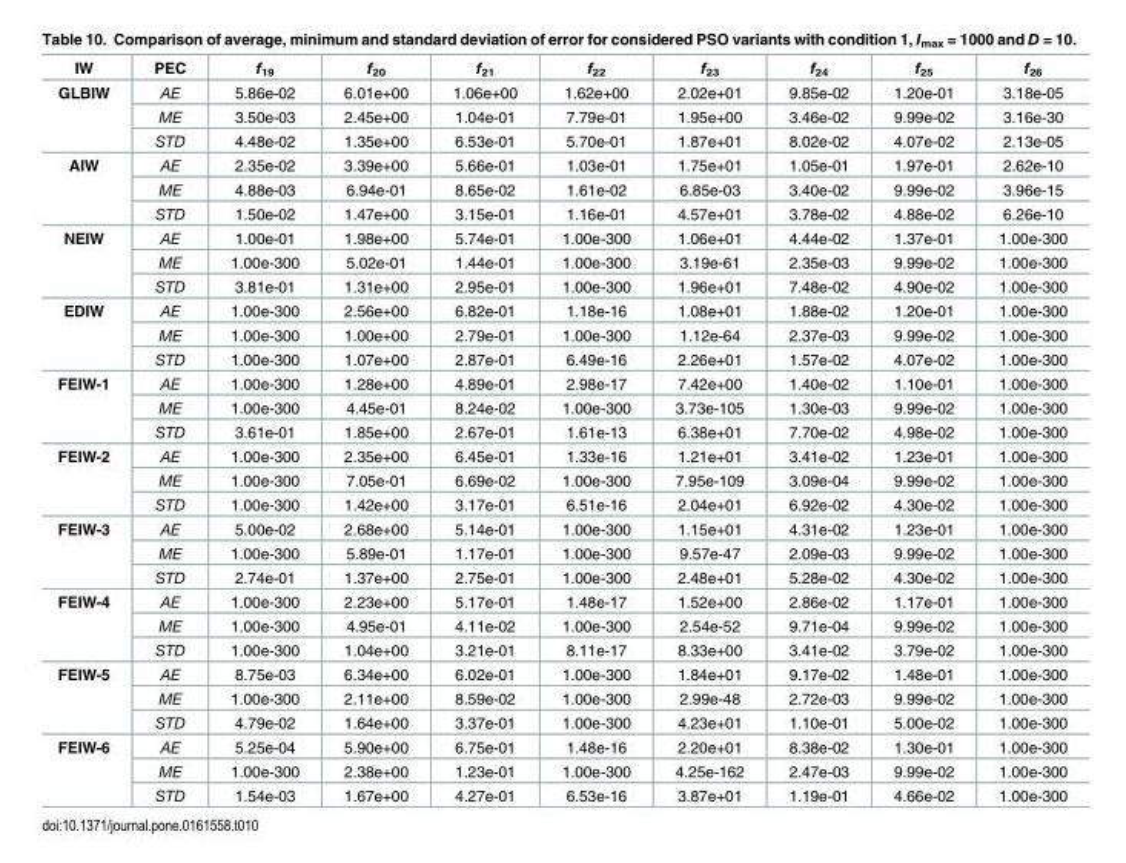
<table><thead><tr><td>IW</td><td>PEC</td><td>f<sub>19</sub></td><td>f<sub>20</sub></td><td>f<sub>21</sub></td><td>f<sub>22</sub></td><td>f<sub>23</sub></td><td>f<sub>24</sub></td><td>f<sub>25</sub></td><td>f<sub>26</sub></td></tr></thead><tbody><tr><td rowspan="3">GLBIW</td><td>AE</td><td>5.86e-02</td><td>6.01e+00</td><td>1.06e+00</td><td>1.62e+00</td><td>2.02e+01</td><td>9.85e-02</td><td>1.20e-01</td><td>3.18e-05</td></tr><tr><td>ME</td><td>3.50e-03</td><td>2.45e+00</td><td>1.04e-01</td><td>7.79e-01</td><td>1.95e+00</td><td>3.46e-02</td><td>9.99e-02</td><td>3.16e-30</td></tr><tr><td>STD</td><td>4.48e-02</td><td>1.35e+00</td><td>6.53e-01</td><td>5.70e-01</td><td>1.87e+01</td><td>8.02e-02</td><td>4.07e-02</td><td>2.13e-05</td></tr><tr><td rowspan="3">AIW</td><td>AE</td><td>2.35e-02</td><td>3.39e+00</td><td>5.66e-01</td><td>1.03e-01</td><td>1.75e+01</td><td>1.05e-01</td><td>1.97e-01</td><td>2.62e-10</td></tr><tr><td>ME</td><td>4.88e-03</td><td>6.94e-01</td><td>8.65e-02</td><td>1.61e-02</td><td>6.85e-03</td><td>3.40e-02</td><td>9.99e-02</td><td>3.96e-15</td></tr><tr><td>STD</td><td>1.50e-02</td><td>1.47e+00</td><td>3.15e-01</td><td>1.16e-01</td><td>4.57e+01</td><td>3.78e-02</td><td>4.88e-02</td><td>6.26e-10</td></tr><tr><td rowspan="3">NEIW</td><td>AE</td><td>1.00e-01</td><td>1.98e+00</td><td>5.74e-01</td><td>1.00e-300</td><td>1.06e+01</td><td>4.44e-02</td><td>1.37e-01</td><td>1.00e-300</td></tr><tr><td>ME</td><td>1.00e-300</td><td>5.02e-01</td><td>1.44e-01</td><td>1.00e-300</td><td>3.19e-61</td><td>2.35e-03</td><td>9.99e-02</td><td>1.00e-300</td></tr><tr><td>STD</td><td>3.81e-01</td><td>1.31e+00</td><td>2.95e-01</td><td>1.00e-300</td><td>1.96e+01</td><td>7.48e-02</td><td>4.90e-02</td><td>1.00e-300</td></tr><tr><td rowspan="3">EDIW</td><td>AE</td><td>1.00e-300</td><td>2.56e+00</td><td>6.82e-01</td><td>1.18e-16</td><td>1.08e+01</td><td>1.88e-02</td><td>1.20e-01</td><td>1.00e-300</td></tr><tr><td>ME</td><td>1.00e-300</td><td>1.00e+00</td><td>2.79e-01</td><td>1.00e-300</td><td>1.12e-64</td><td>2.37e-03</td><td>9.99e-02</td><td>1.00e-300</td></tr><tr><td>STD</td><td>1.00e-300</td><td>1.07e+00</td><td>2.87e-01</td><td>6.49e-16</td><td>2.26e+01</td><td>1.57e-02</td><td>4.07e-02</td><td>1.00e-300</td></tr><tr><td rowspan="3">FEIW-1</td><td>AE</td><td>1.00e-300</td><td>1.28e+00</td><td>4.89e-01</td><td>2.98e-17</td><td>7.42e+00</td><td>1.40e-02</td><td>1.10e-01</td><td>1.00e-300</td></tr><tr><td>ME</td><td>1.00e-300</td><td>4.45e-01</td><td>8.24e-02</td><td>1.00e-300</td><td>3.73e-105</td><td>1.30e-03</td><td>9.99e-02</td><td>1.00e-300</td></tr><tr><td>STD</td><td>3.61e-01</td><td>1.85e+00</td><td>2.67e-01</td><td>1.61e-13</td><td>6.38e+01</td><td>7.70e-02</td><td>4.98e-02</td><td>1.00e-300</td></tr><tr><td rowspan="3">FEIW-2</td><td>AE</td><td>1.00e-300</td><td>2.35e+00</td><td>6.45e-01</td><td>1.33e-16</td><td>1.21e+01</td><td>3.41e-02</td><td>1.23e-01</td><td>1.00e-300</td></tr><tr><td>ME</td><td>1.00e-300</td><td>7.05e-01</td><td>6.69e-02</td><td>1.00e-300</td><td>7.95e-109</td><td>3.09e-04</td><td>9.99e-02</td><td>1.00e-300</td></tr><tr><td>STD</td><td>1.00e-300</td><td>1.42e+00</td><td>3.17e-01</td><td>6.51e-16</td><td>2.04e+01</td><td>6.92e-02</td><td>4.30e-02</td><td>1.00e-300</td></tr><tr><td rowspan="3">FEIW-3</td><td>AE</td><td>5.00e-02</td><td>2.68e+00</td><td>5.14e-01</td><td>1.00e-300</td><td>1.15e+01</td><td>4.31e-02</td><td>1.23e-01</td><td>1.00e-300</td></tr><tr><td>ME</td><td>1.00e-300</td><td>5.89e-01</td><td>1.17e-01</td><td>1.00e-300</td><td>9.57e-47</td><td>2.09e-03</td><td>9.99e-02</td><td>1.00e-300</td></tr><tr><td>STD</td><td>2.74e-01</td><td>1.37e+00</td><td>2.75e-01</td><td>1.00e-300</td><td>2.48e+01</td><td>5.28e-02</td><td>4.30e-02</td><td>1.00e-300</td></tr><tr><td rowspan="3">FEIW-4</td><td>AE</td><td>1.00e-300</td><td>2.23e+00</td><td>5.17e-01</td><td>1.48e-17</td><td>1.52e+00</td><td>2.86e-02</td><td>1.17e-01</td><td>1.00e-300</td></tr><tr><td>ME</td><td>1.00e-300</td><td>4.95e-01</td><td>4.11e-02</td><td>1.00e-300</td><td>2.54e-52</td><td>9.71e-04</td><td>9.99e-02</td><td>1.00e-300</td></tr><tr><td>STD</td><td>1.00e-300</td><td>1.04e+00</td><td>3.21e-01</td><td>8.11e-17</td><td>8.33e+00</td><td>3.41e-02</td><td>3.79e-02</td><td>1.00e-300</td></tr><tr><td rowspan="3">FEIW-5</td><td>AE</td><td>8.75e-03</td><td>6.34e+00</td><td>6.02e-01</td><td>1.00e-300</td><td>1.84e+01</td><td>9.17e-02</td><td>1.48e-01</td><td>1.00e-300</td></tr><tr><td>ME</td><td>1.00e-300</td><td>2.11e+00</td><td>8.59e-02</td><td>1.00e-300</td><td>2.99e-48</td><td>2.72e-03</td><td>9.99e-02</td><td>1.00e-300</td></tr><tr><td>STD</td><td>4.79e-02</td><td>1.64e+00</td><td>3.37e-01</td><td>1.00e-300</td><td>4.23e+01</td><td>1.10e-01</td><td>5.00e-02</td><td>1.00e-300</td></tr><tr><td rowspan="3">FEIW-6</td><td>AE</td><td>5.25e-04</td><td>5.90e+00</td><td>6.75e-01</td><td>1.48e-16</td><td>2.20e+01</td><td>8.38e-02</td><td>1.30e-01</td><td>1.00e-300</td></tr><tr><td>ME</td><td>1.00e-300</td><td>2.38e+00</td><td>1.23e-01</td><td>1.00e-300</td><td>4.25e-162</td><td>2.47e-03</td><td>9.99e-02</td><td>1.00e-300</td></tr><tr><td>STD</td><td>1.54e-03</td><td>1.67e+00</td><td>4.27e-01</td><td>6.53e-16</td><td>3.87e+01</td><td>1.19e-01</td><td>4.66e-02</td><td>1.00e-300</td></tr></tbody></table>